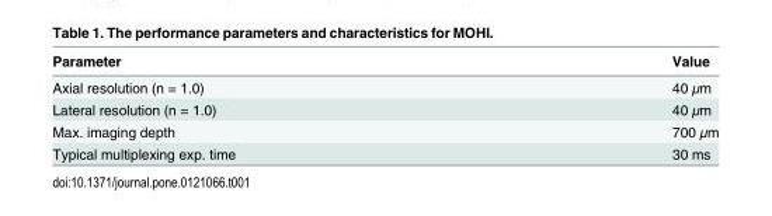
<table><thead><tr><td>Parameter</td><td>Value</td></tr></thead><tbody><tr><td>Axial resolution (n = 1.0)</td><td>40 μm</td></tr><tr><td>Lateral resolution (n = 1.0)</td><td>40 μm</td></tr><tr><td>Max. imaging depth</td><td>700 μm</td></tr><tr><td>Typical multiplexing exp. time</td><td>30 ms</td></tr></tbody></table>